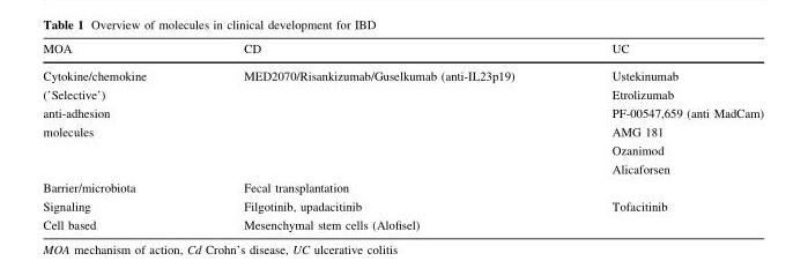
<table><thead><tr><td>MOA</td><td>CD</td><td>UC</td></tr></thead><tbody><tr><td>Cytokine/chemokine</td><td>MED2070/Risankizumab/Guselkumab (anti-IL23p19)</td><td>Ustekinumab</td></tr><tr><td>(’Selective’) anti-adhesion molecules</td><td></td><td>Etrolizumab PF-00547,659 (anti MadCam) AMG 181 Ozanimod Alicaforsen</td></tr><tr><td>Barrier/microbiota</td><td colspan="2">Fecal transplantation</td></tr><tr><td>Signaling</td><td>Filgotinib, upadacitinib</td><td>Tofacitinib</td></tr><tr><td>Cell based</td><td>Mesenchymal stem cells (Alofisel)</td><td></td></tr></tbody></table>